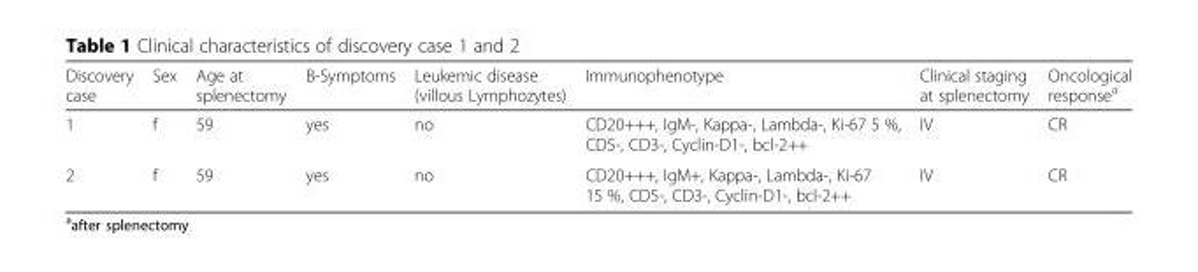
<table><thead><tr><td>Discovery case</td><td>Sex</td><td>Age at splenectomy</td><td>B-Symptoms</td><td>Leukemic disease (villous Lymphozytes)</td><td>Immunophenotype</td><td>Clinical staging at splenectomy</td><td>Oncological response<sup>a</sup></td></tr></thead><tbody><tr><td>1</td><td>f</td><td>59</td><td>yes</td><td>no</td><td>CD20+++, IgM-, Kappa-, Lambda-, Ki-67 5 %, CD5-, CD3-, Cyclin-D1-, bcl-2++</td><td>IV</td><td>CR</td></tr><tr><td>2</td><td>f</td><td>59</td><td>yes</td><td>no</td><td>CD20+++, IgM+, Kappa-, Lambda-, Ki-67 15 %, CD5-, CD3-, Cyclin-D1-, bcl-2++</td><td>IV</td><td>CR</td></tr></tbody></table>